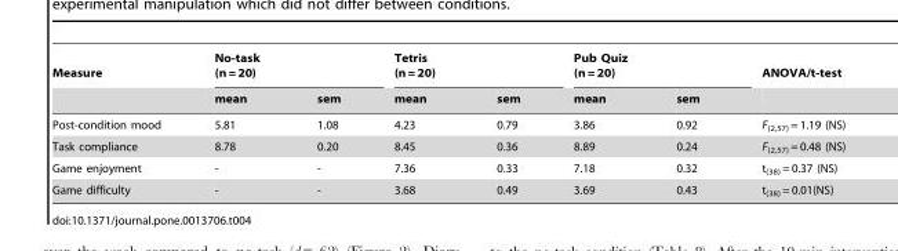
<table><thead><tr><td rowspan="2">Measure</td><td colspan="2">No-task (n = 20)</td><td colspan="2">Tetris (n = 20)</td><td colspan="2">Pub Quiz (n = 20)</td><td rowspan="2">ANOVA/t-test</td></tr><tr><td>mean</td><td>sem</td><td>mean</td><td>sem</td><td>mean</td><td>sem</td></tr></thead><tbody><tr><td>Post-condition mood</td><td>5.81</td><td>1.08</td><td>4.23</td><td>0.79</td><td>3.86</td><td>0.92</td><td>F<sub>(2,57)</sub> = 1.19 (NS)</td></tr><tr><td>Task compliance</td><td>8.78</td><td>0.20</td><td>8.45</td><td>0.36</td><td>8.89</td><td>0.24</td><td>F<sub>(2,57)</sub> = 0.48 (NS)</td></tr><tr><td>Game enjoyment</td><td>-</td><td>-</td><td>7.36</td><td>0.33</td><td>7.18</td><td>0.32</td><td>t<sub>(38)</sub> = 0.37 (NS)</td></tr><tr><td>Game difficulty</td><td>-</td><td>-</td><td>3.68</td><td>0.49</td><td>3.69</td><td>0.43</td><td>t<sub>(38)</sub> = 0.01(NS)</td></tr></tbody></table>